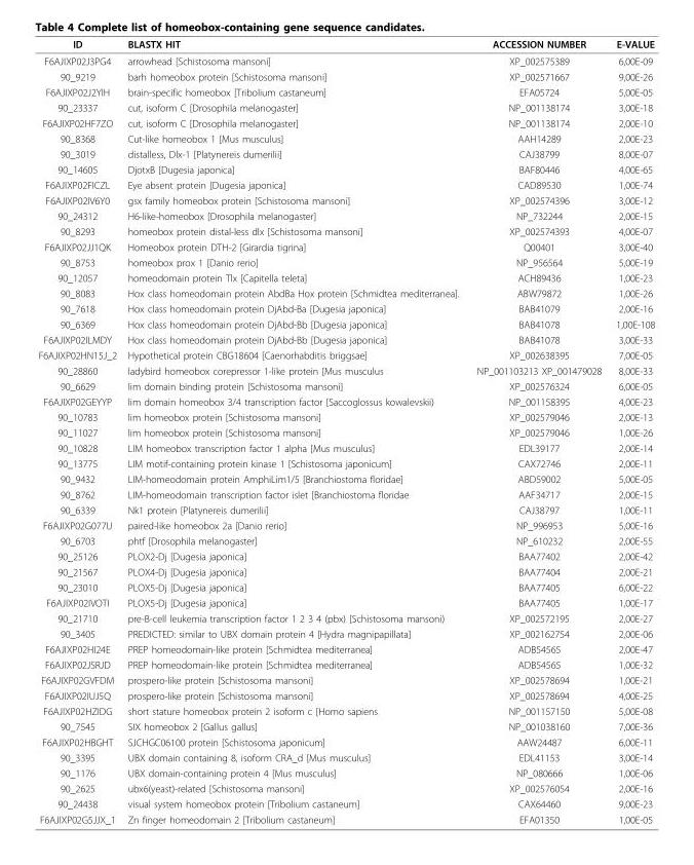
<table><thead><tr><td>ID</td><td>BLASTX HIT</td><td>ACCESSION NUMBER</td><td>E-VALUE</td></tr></thead><tbody><tr><td>F6AJIXP02J3PG4</td><td>arrowhead [Schistosoma mansoni]</td><td>XP_002575389</td><td>6,00E-09</td></tr><tr><td>90_9219</td><td>barh homeobox protein [Schistosoma mansoni]</td><td>XP_002571667</td><td>9,00E-26</td></tr><tr><td>F6AJIXP02J2YIH</td><td>brain-specific homeobox [Tribolium castaneum]</td><td>EFA05724</td><td>5,00E-05</td></tr><tr><td>90_23337</td><td>cut, isoform C [Drosophila melanogaster]</td><td>NP_001138174</td><td>3,00E-18</td></tr><tr><td>F6AJIXP02HF7ZO</td><td>cut, isoform C [Drosophila melanogaster]</td><td>NP_001138174</td><td>2,00E-10</td></tr><tr><td>90_8368</td><td>Cut-like homeobox 1 [Mus musculus]</td><td>AAH14289</td><td>2,00E-23</td></tr><tr><td>90_3019</td><td>distalless, Dlx-1 [Platynereis dumerilii]</td><td>CAJ38799</td><td>8,00E-07</td></tr><tr><td>90_14605</td><td>DjotxB [Dugesia japonica]</td><td>BAF80446</td><td>4,00E-65</td></tr><tr><td>F6AJIXP02FICZL</td><td>Eye absent protein [Dugesia japonica]</td><td>CAD89530</td><td>1,00E-74</td></tr><tr><td>F6AJIXP02IV6Y0</td><td>gsx family homeobox protein [Schistosoma mansoni]</td><td>XP_002574396</td><td>3,00E-12</td></tr><tr><td>90_24312</td><td>H6-like-homeobox [Drosophila melanogaster]</td><td>NP_732244</td><td>2,00E-15</td></tr><tr><td>90_8293</td><td>homeobox protein distal-less dlx [Schistosoma mansoni]</td><td>XP_002574393</td><td>4,00E-07</td></tr><tr><td>F6AJIXP02JJ1QK</td><td>Homeobox protein DTH-2 [Girardia tigrina]</td><td>Q00401</td><td>3,00E-40</td></tr><tr><td>90_8753</td><td>homeobox prox 1 [Danio rerio]</td><td>NP_956564</td><td>5,00E-19</td></tr><tr><td>90_12057</td><td>homeodomain protein Tlx [Capitella teleta]</td><td>ACH89436</td><td>1,00E-23</td></tr><tr><td>90_8083</td><td>Hox class homeodomain protein AbdBa Hox protein [Schmidtea mediterranea].</td><td>ABW79872</td><td>1,00E-26</td></tr><tr><td>90_7618</td><td>Hox class homeodomain protein DjAbd-Ba [Dugesia japonica]</td><td>BAB41079</td><td>2,00E-16</td></tr><tr><td>90_6369</td><td>Hox class homeodomain protein DjAbd-Bb [Dugesia japonica]</td><td>BAB41078</td><td>1,00E-108</td></tr><tr><td>F6AJIXP02ILMDY</td><td>Hox class homeodomain protein DjAbd-Bb [Dugesia japonica]</td><td>BAB41078</td><td>3,00E-33</td></tr><tr><td>F6AJIXP02HN15J_2</td><td>Hypothetical protein CBG18604 [Caenorhabditis briggsae]</td><td>XP_002638395</td><td>7,00E-05</td></tr><tr><td>90_28860</td><td>ladybird homeobox corepressor 1-like protein [Mus musculus</td><td>NP_001103213 XP_001479028</td><td>8,00E-33</td></tr><tr><td>90_6629</td><td>lim domain binding protein [Schistosoma mansoni]</td><td>XP_002576324</td><td>6,00E-05</td></tr><tr><td>F6AJIXP02GEYYP</td><td>lim domain homeobox 3/4 transcription factor [Saccoglossus kowalevskii)</td><td>NP_001158395</td><td>4,00E-23</td></tr><tr><td>90_10783</td><td>lim homeobox protein [Schistosoma mansoni]</td><td>XP_002579046</td><td>2,00E-13</td></tr><tr><td>90_11027</td><td>lim homeobox protein [Schistosoma mansoni]</td><td>XP_002579046</td><td>1,00E-26</td></tr><tr><td>90_10828</td><td>LIM homeobox transcription factor 1 alpha [Mus musculus]</td><td>EDL39177</td><td>2,00E-14</td></tr><tr><td>90_13775</td><td>LIM motif-containing protein kinase 1 [Schistosoma japonicum]</td><td>CAX72746</td><td>2,00E-11</td></tr><tr><td>90_9432</td><td>LIM-homeodomain protein AmphiLim1/5 [Branchiostoma floridae]</td><td>ABD59002</td><td>5,00E-05</td></tr><tr><td>90_8762</td><td>LIM-homeodomain transcription factor islet [Branchiostoma floridae</td><td>AAF34717</td><td>2,00E-15</td></tr><tr><td>90_6339</td><td>Nk1 protein [Platynereis dumerilii]</td><td>CAJ38797</td><td>1,00E-11</td></tr><tr><td>F6AJIXP02G077U</td><td>paired-like homeobox 2a [Danio rerio]</td><td>NP_996953</td><td>5,00E-16</td></tr><tr><td>90_6703</td><td>phtf [Drosophila melanogaster]</td><td>NP_610232</td><td>2,00E-55</td></tr><tr><td>90_25126</td><td>PLOX2-Dj [Dugesia japonica]</td><td>BAA77402</td><td>2,00E-42</td></tr><tr><td>90_21567</td><td>PLOX4-Dj [Dugesia japonica]</td><td>BAA77404</td><td>2,00E-21</td></tr><tr><td>90_23010</td><td>PLOX5-Dj [Dugesia japonica]</td><td>BAA77405</td><td>6,00E-22</td></tr><tr><td>F6AJIXP02IVOTI</td><td>PLOX5-Dj [Dugesia japonica]</td><td>BAA77405</td><td>1,00E-17</td></tr><tr><td>90_21710</td><td>pre-B-cell leukemia transcription factor 1 2 3 4 (pbx) [Schistosoma mansoni)</td><td>XP_002572195</td><td>2,00E-27</td></tr><tr><td>90_3405</td><td>PREDICTED: similar to UBX domain protein 4 [Hydra magnipapillata]</td><td>XP_002162754</td><td>2,00E-06</td></tr><tr><td>F6AJIXP02HI24E</td><td>PREP homeodomain-like protein [Schmidtea mediterranea]</td><td>ADB54565</td><td>2,00E-47</td></tr><tr><td>F6AJIXP02JSRJD</td><td>PREP homeodomain-like protein [Schmidtea mediterranea]</td><td>ADB54565</td><td>1,00E-32</td></tr><tr><td>F6AJIXP02GVFDM</td><td>prospero-like protein [Schistosoma mansoni]</td><td>XP_002578694</td><td>1,00E-21</td></tr><tr><td>F6AJIXP02IUJ5Q</td><td>prospero-like protein [Schistosoma mansoni]</td><td>XP_002578694</td><td>4,00E-25</td></tr><tr><td>F6AJIXP02HZIDG</td><td>short stature homeobox protein 2 isoform c [Homo sapiens</td><td>NP_001157150</td><td>5,00E-08</td></tr><tr><td>90_7545</td><td>SIX homeobox 2 [Gallus gallus]</td><td>NP_001038160</td><td>7,00E-36</td></tr><tr><td>F6AJIXP02HBGHT</td><td>SJCHGC06100 protein [Schistosoma japonicum]</td><td>AAW24487</td><td>6,00E-11</td></tr><tr><td>90_3395</td><td>UBX domain containing 8, isoform CRA_d [Mus musculus]</td><td>EDL41153</td><td>3,00E-14</td></tr><tr><td>90_1176</td><td>UBX domain-containing protein 4 [Mus musculus]</td><td>NP_080666</td><td>1,00E-06</td></tr><tr><td>90_2625</td><td>ubx6(yeast)-related [Schistosoma mansoni]</td><td>XP_002576054</td><td>2,00E-16</td></tr><tr><td>90_24438</td><td>visual system homeobox protein [Tribolium castaneum]</td><td>CAX64460</td><td>9,00E-23</td></tr><tr><td>F6AJIXP02G5JJX_1</td><td>Zn finger homeodomain 2 [Tribolium castaneum]</td><td>EFA01350</td><td>1,00E-05</td></tr></tbody></table>